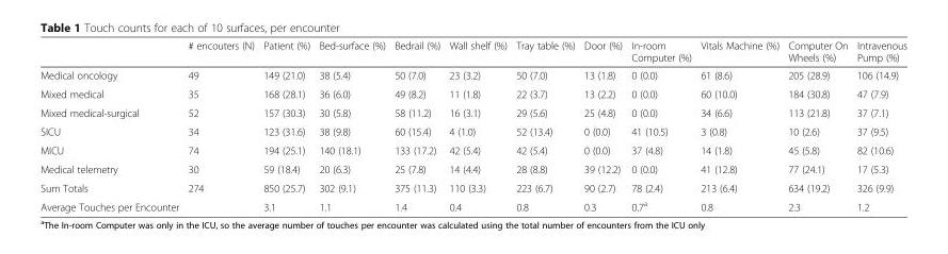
<table><thead><tr><td></td><td># encouters (N)</td><td>Patient (%)</td><td>Bed-surface (%)</td><td>Bedrail (%)</td><td>Wall shelf (%)</td><td>Tray table (%)</td><td>Door (%)</td><td>In-room Computer (%)</td><td>Vitals Machine (%)</td><td>Computer On Wheels (%)</td><td>Intravenous Pump (%)</td></tr></thead><tbody><tr><td>Medical oncology</td><td>49</td><td>149 (21.0)</td><td>38 (5.4)</td><td>50 (7.0)</td><td>23 (3.2)</td><td>50 (7.0)</td><td>13 (1.8)</td><td>0 (0.0)</td><td>61 (8.6)</td><td>205 (28.9)</td><td>106 (14.9)</td></tr><tr><td>Mixed medical</td><td>35</td><td>168 (28.1)</td><td>36 (6.0)</td><td>49 (8.2)</td><td>11 (1.8)</td><td>22 (3.7)</td><td>13 (2.2)</td><td>0 (0.0)</td><td>60 (10.0)</td><td>184 (30.8)</td><td>47 (7.9)</td></tr><tr><td>Mixed medical-surgical</td><td>52</td><td>157 (30.3)</td><td>30 (5.8)</td><td>58 (11.2)</td><td>16 (3.1)</td><td>29 (5.6)</td><td>25 (4.8)</td><td>0 (0.0)</td><td>34 (6.6)</td><td>113 (21.8)</td><td>37 (7.1)</td></tr><tr><td>SICU</td><td>34</td><td>123 (31.6)</td><td>38 (9.8)</td><td>60 (15.4)</td><td>4 (1.0)</td><td>52 (13.4)</td><td>0 (0.0)</td><td>41 (10.5)</td><td>3 (0.8)</td><td>10 (2.6)</td><td>37 (9.5)</td></tr><tr><td>MICU</td><td>74</td><td>194 (25.1)</td><td>140 (18.1)</td><td>133 (17.2)</td><td>42 (5.4)</td><td>42 (5.4)</td><td>0 (0.0)</td><td>37 (4.8)</td><td>14 (1.8)</td><td>45 (5.8)</td><td>82 (10.6)</td></tr><tr><td>Medical telemetry</td><td>30</td><td>59 (18.4)</td><td>20 (6.3)</td><td>25 (7.8)</td><td>14 (4.4)</td><td>28 (8.8)</td><td>39 (12.2)</td><td>0 (0.0)</td><td>41 (12.8)</td><td>77 (24.1)</td><td>17 (5.3)</td></tr><tr><td>Sum Totals</td><td>274</td><td>850 (25.7)</td><td>302 (9.1)</td><td>375 (11.3)</td><td>110 (3.3)</td><td>223 (6.7)</td><td>90 (2.7)</td><td>78 (2.4)</td><td>213 (6.4)</td><td>634 (19.2)</td><td>326 (9.9)</td></tr><tr><td>Average Touches per Encounter</td><td></td><td>3.1</td><td>1.1</td><td>1.4</td><td>0.4</td><td>0.8</td><td>0.3</td><td>0.7<sup>a</sup></td><td>0.8</td><td>2.3</td><td>1.2</td></tr></tbody></table>